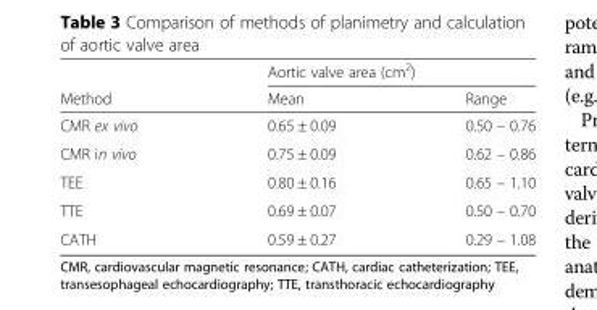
<table><thead><tr><td rowspan="2">Method</td><td colspan="2">Aortic valve area (cm<sup>2</sup>)</td></tr><tr><td>Mean</td><td>Range</td></tr></thead><tbody><tr><td>CMR ex vivo</td><td>0.65 ± 0.09</td><td>0.50 – 0.76</td></tr><tr><td>CMR in vivo</td><td>0.75 ± 0.09</td><td>0.62 – 0.86</td></tr><tr><td>TEE</td><td>0.80 ± 0.16</td><td>0.65 – 1.10</td></tr><tr><td>TTE</td><td>0.69 ± 0.07</td><td>0.50 – 0.70</td></tr><tr><td>CATH</td><td>0.59 ± 0.27</td><td>0.29 – 1.08</td></tr></tbody></table>